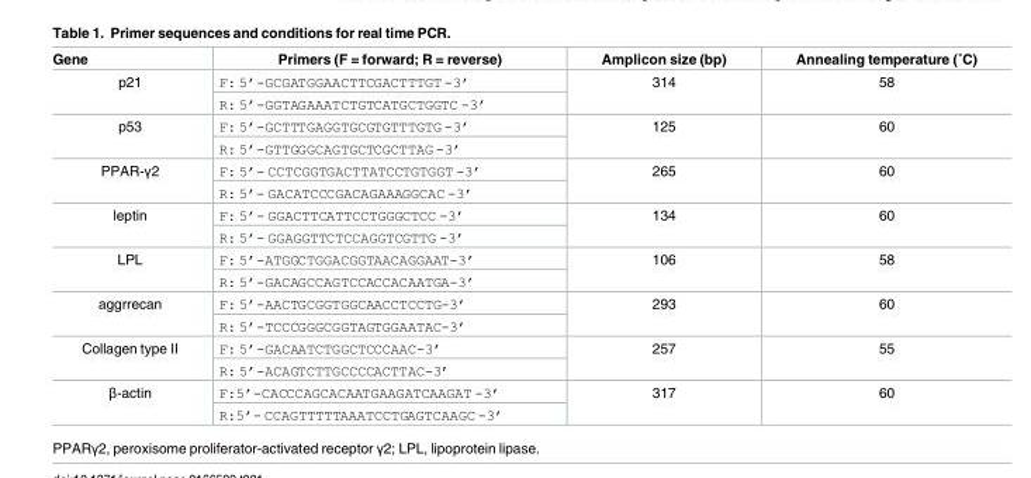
<table><thead><tr><td>Gene</td><td>Primers (F = forward; R = reverse)</td><td>Amplicon size (bp)</td><td>Annealing temperature (˚C)</td></tr></thead><tbody><tr><td rowspan="2">p21</td><td>F: 5’-GCGATGGAACTTCGACTTTGT -3’</td><td rowspan="2">314</td><td rowspan="2">58</td></tr><tr><td>R: 5’-GGTAGAAATCTGTCATGCTGGTC -3’</td></tr><tr><td rowspan="2">p53</td><td>F: 5’-GCTTTGAGGTGCGTGTTTGTG -3’</td><td rowspan="2">125</td><td rowspan="2">60</td></tr><tr><td>R: 5’-GTTGGGCAGTGCTCGCTTAG -3’</td></tr><tr><td rowspan="2">PPAR-γ2</td><td>F: 5’- CCTCGGTGACTTATCCTGTGGT -3’</td><td rowspan="2">265</td><td rowspan="2">60</td></tr><tr><td>R: 5’- GACATCCCGACAGAAAGGCAC -3’</td></tr><tr><td rowspan="2">leptin</td><td>F: 5’- GGACTTCATTCCTGGGCTCC -3’</td><td rowspan="2">134</td><td rowspan="2">60</td></tr><tr><td>R: 5’- GGAGGTTCTCCAGGTCGTTG -3’</td></tr><tr><td rowspan="2">LPL</td><td>F: 5’-ATGGCTGGACGGTAACAGGAAT-3’</td><td rowspan="2">106</td><td rowspan="2">58</td></tr><tr><td>R: 5’-GACAGCCAGTCCACCACAATGA-3’</td></tr><tr><td rowspan="2">aggrrecan</td><td>F: 5’-AACTGCGGTGGCAACCTCCTG-3’</td><td rowspan="2">293</td><td rowspan="2">60</td></tr><tr><td>R: 5’-TCCCGGGCGGTAGTGGAATAC-3’</td></tr><tr><td rowspan="2">Collagen type II</td><td>F: 5’-GACAATCTGGCTCCCAAC-3’</td><td rowspan="2">257</td><td rowspan="2">55</td></tr><tr><td>R: 5’-ACAGTCTTGCCCCACTTAC-3’</td></tr><tr><td rowspan="2">β-actin</td><td>F:5’-CACCCAGCACAATGAAGATCAAGAT -3’</td><td rowspan="2">317</td><td rowspan="2">60</td></tr><tr><td>R:5’- CCAGTTTTTAAATCCTGAGTCAAGC -3’</td></tr></tbody></table>